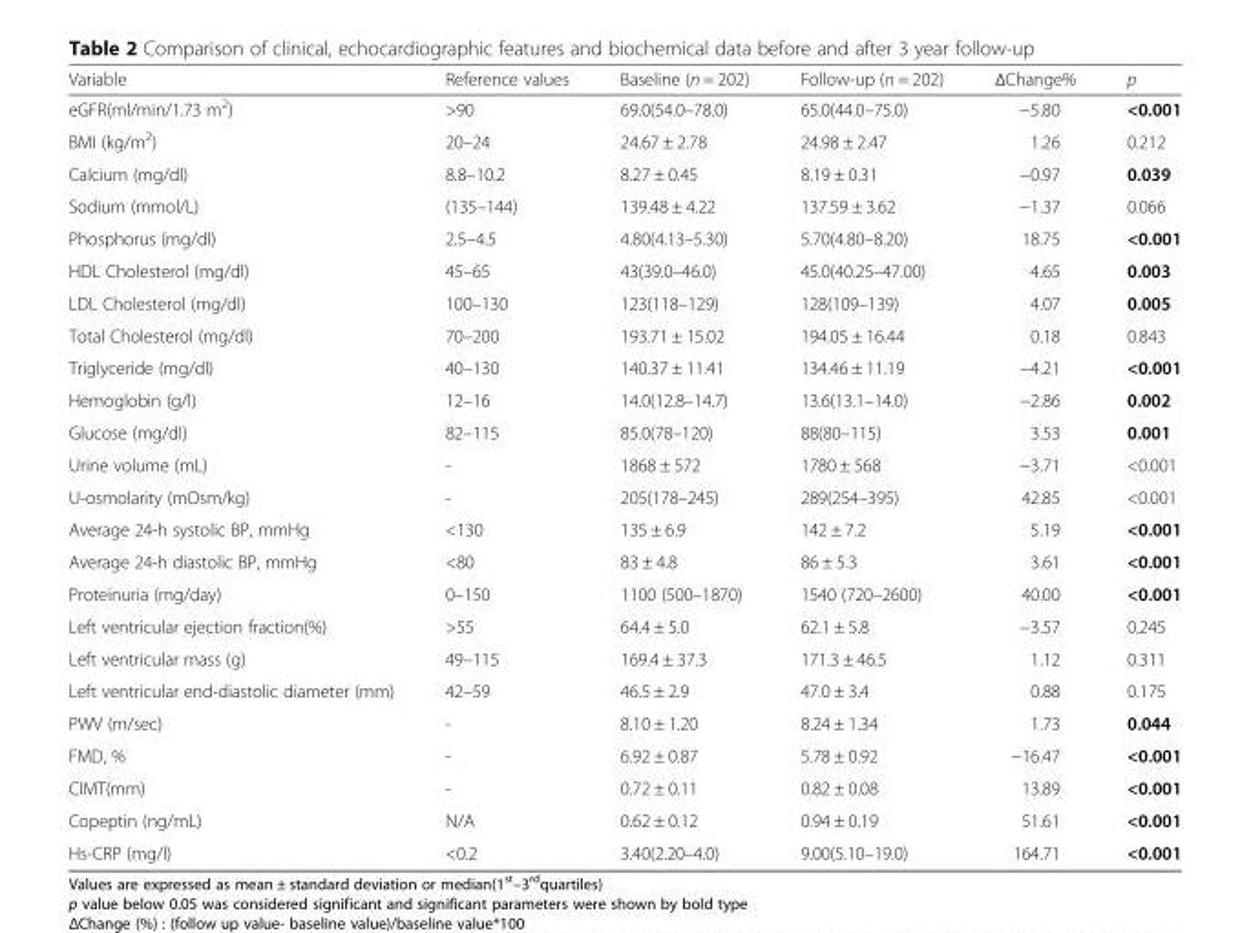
<table><thead><tr><td>Variable</td><td>Reference values</td><td>Baseline (n = 202)</td><td>Follow-up (n = 202)</td><td>ΔChange%</td><td>p</td></tr></thead><tbody><tr><td>eGFR(ml/min/1.73 m<sup>2</sup>)</td><td>&gt;90</td><td>69.0(54.0–78.0)</td><td>65.0(44.0–75.0)</td><td>−5.80</td><td>&lt;0.001</td></tr><tr><td>BMI (kg/m<sup>2</sup>)</td><td>20–24</td><td>24.67 ± 2.78</td><td>24.98 ± 2.47</td><td>1.26</td><td>0.212</td></tr><tr><td>Calcium (mg/dl)</td><td>8.8–10.2</td><td>8.27 ± 0.45</td><td>8.19 ± 0.31</td><td>−0.97</td><td>0.039</td></tr><tr><td>Sodium (mmol/L)</td><td>(135–144)</td><td>139.48 ± 4.22</td><td>137.59 ± 3.62</td><td>−1.37</td><td>0.066</td></tr><tr><td>Phosphorus (mg/dl)</td><td>2.5–4.5</td><td>4.80(4.13–5.30)</td><td>5.70(4.80–8.20)</td><td>18.75</td><td>&lt;0.001</td></tr><tr><td>HDL Cholesterol (mg/dl)</td><td>45–65</td><td>43(39.0–46.0)</td><td>45.0(40.25–47.00)</td><td>4.65</td><td>0.003</td></tr><tr><td>LDL Cholesterol (mg/dl)</td><td>100–130</td><td>123(118–129)</td><td>128(109–139)</td><td>4.07</td><td>0.005</td></tr><tr><td>Total Cholesterol (mg/dl)</td><td>70–200</td><td>193.71 ± 15.02</td><td>194.05 ± 16.44</td><td>0.18</td><td>0.843</td></tr><tr><td>Triglyceride (mg/dl)</td><td>40–130</td><td>140.37 ± 11.41</td><td>134.46 ± 11.19</td><td>−4.21</td><td>&lt;0.001</td></tr><tr><td>Hemoglobin (g/l)</td><td>12–16</td><td>14.0(12.8–14.7)</td><td>13.6(13.1–14.0)</td><td>−2.86</td><td>0.002</td></tr><tr><td>Glucose (mg/dl)</td><td>82–115</td><td>85.0(78–120)</td><td>88(80–115)</td><td>3.53</td><td>0.001</td></tr><tr><td>Urine volume (mL)</td><td>-</td><td>1868 ± 572</td><td>1780 ± 568</td><td>−3.71</td><td>&lt;0.001</td></tr><tr><td>U-osmolarity (mOsm/kg)</td><td>-</td><td>205(178–245)</td><td>289(254–395)</td><td>42.85</td><td>&lt;0.001</td></tr><tr><td>Average 24-h systolic BP, mmHg</td><td>&lt;130</td><td>135 ± 6.9</td><td>142 ± 7.2</td><td>5.19</td><td>&lt;0.001</td></tr><tr><td>Average 24-h diastolic BP, mmHg</td><td>&lt;80</td><td>83 ± 4.8</td><td>86 ± 5.3</td><td>3.61</td><td>&lt;0.001</td></tr><tr><td>Proteinuria (mg/day)</td><td>0–150</td><td>1100 (500–1870)</td><td>1540 (720–2600)</td><td>40.00</td><td>&lt;0.001</td></tr><tr><td>Left ventricular ejection fraction(%)</td><td>&gt;55</td><td>64.4 ± 5.0</td><td>62.1 ± 5.8</td><td>−3.57</td><td>0.245</td></tr><tr><td>Left ventricular mass (g)</td><td>49–115</td><td>169.4 ± 37.3</td><td>171.3 ± 46.5</td><td>1.12</td><td>0.311</td></tr><tr><td>Left ventricular end-diastolic diameter (mm)</td><td>42–59</td><td>46.5 ± 2.9</td><td>47.0 ± 3.4</td><td>0.88</td><td>0.175</td></tr><tr><td>PWV (m/sec)</td><td>-</td><td>8.10 ± 1.20</td><td>8.24 ± 1.34</td><td>1.73</td><td>0.044</td></tr><tr><td>FMD, %</td><td>-</td><td>6.92 ± 0.87</td><td>5.78 ± 0.92</td><td>−16.47</td><td>&lt;0.001</td></tr><tr><td>CIMT(mm)</td><td>-</td><td>0.72 ± 0.11</td><td>0.82 ± 0.08</td><td>13.89</td><td>&lt;0.001</td></tr><tr><td>Copeptin (ng/mL)</td><td>N/A</td><td>0.62 ± 0.12</td><td>0.94 ± 0.19</td><td>51.61</td><td>&lt;0.001</td></tr><tr><td>Hs-CRP (mg/l)</td><td>&lt;0.2</td><td>3.40(2.20–4.0)</td><td>9.00(5.10–19.0)</td><td>164.71</td><td>&lt;0.001</td></tr></tbody></table>